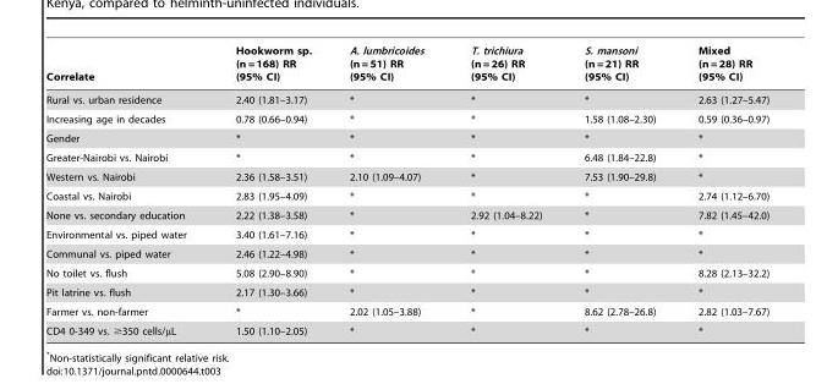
<table><thead><tr><td>Correlate</td><td>Hookworm sp. (n = 168) RR (95% CI)</td><td>A. lumbricoides (n = 51) RR (95% CI)</td><td>T. trichiura (n = 26) RR (95% CI)</td><td>S. mansoni (n = 21) RR (95% CI)</td><td>Mixed (n = 28) RR (95% CI)</td></tr></thead><tbody><tr><td>Rural vs. urban residence</td><td>2.40 (1.81–3.17)</td><td>*</td><td>*</td><td>*</td><td>2.63 (1.27–5.47)</td></tr><tr><td>Increasing age in decades</td><td>0.78 (0.66–0.94)</td><td>*</td><td>*</td><td>1.58 (1.08–2.30)</td><td>0.59 (0.36–0.97)</td></tr><tr><td>Gender</td><td>*</td><td>*</td><td>*</td><td>*</td><td>*</td></tr><tr><td>Greater-Nairobi vs. Nairobi</td><td>*</td><td>*</td><td>*</td><td>6.48 (1.84–22.8)</td><td>*</td></tr><tr><td>Western vs. Nairobi</td><td>2.36 (1.58–3.51)</td><td>2.10 (1.09–4.07)</td><td>*</td><td>7.53 (1.90–29.8)</td><td>*</td></tr><tr><td>Coastal vs. Nairobi</td><td>2.83 (1.95–4.09)</td><td>*</td><td>*</td><td>*</td><td>2.74 (1.12–6.70)</td></tr><tr><td>None vs. secondary education</td><td>2.22 (1.38–3.58)</td><td>*</td><td>2.92 (1.04–8.22)</td><td>*</td><td>7.82 (1.45–42.0)</td></tr><tr><td>Environmental vs. piped water</td><td>3.40 (1.61–7.16)</td><td>*</td><td>*</td><td>*</td><td>*</td></tr><tr><td>Communal vs. piped water</td><td>2.46 (1.22–4.98)</td><td>*</td><td>*</td><td>*</td><td>*</td></tr><tr><td>No toilet vs. flush</td><td>5.08 (2.90–8.90)</td><td>*</td><td>*</td><td>*</td><td>8.28 (2.13–32.2)</td></tr><tr><td>Pit latrine vs. flush</td><td>2.17 (1.30–3.66)</td><td>*</td><td>*</td><td>*</td><td>*</td></tr><tr><td>Farmer vs. non-farmer</td><td>*</td><td>2.02 (1.05–3.88)</td><td>*</td><td>8.62 (2.78–26.8)</td><td>2.82 (1.03–7.67)</td></tr><tr><td>CD4 0-349 vs. ≥350 cells/µL</td><td>1.50 (1.10–2.05)</td><td>*</td><td>*</td><td>*</td><td>*</td></tr></tbody></table>